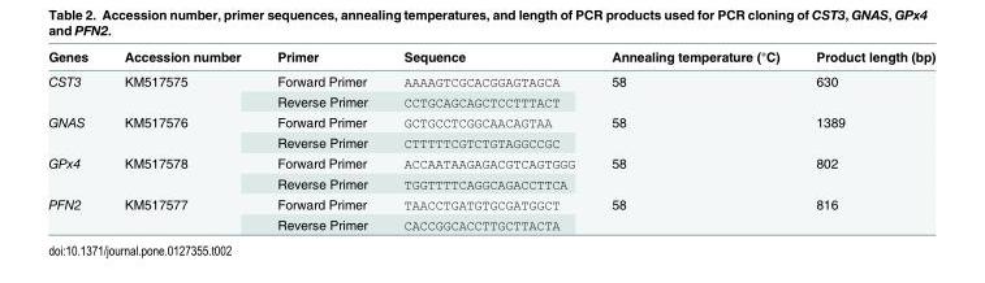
<table><thead><tr><td>Genes</td><td>Accession number</td><td>Primer</td><td>Sequence</td><td>Annealing temperature (°C)</td><td>Product length (bp)</td></tr></thead><tbody><tr><td rowspan="2">CST3</td><td rowspan="2">KM517575</td><td>Forward Primer</td><td>AAAAGTCGCACGGAGTAGCA</td><td rowspan="2">58</td><td rowspan="2">630</td></tr><tr><td>Reverse Primer</td><td>CCTGCAGCAGCTCCTTTACT</td></tr><tr><td rowspan="2">GNAS</td><td rowspan="2">KM517576</td><td>Forward Primer</td><td>GCTGCCTCGGCAACAGTAA</td><td rowspan="2">58</td><td rowspan="2">1389</td></tr><tr><td>Reverse Primer</td><td>CTTTTTCGTCTGTAGGCCGC</td></tr><tr><td rowspan="2">GPx4</td><td rowspan="2">KM517578</td><td>Forward Primer</td><td>ACCAATAAGAGACGTCAGTGGG</td><td rowspan="2">58</td><td rowspan="2">802</td></tr><tr><td>Reverse Primer</td><td>TGGTTTTCAGGCAGACCTTCA</td></tr><tr><td rowspan="2">PFN2</td><td rowspan="2">KM517577</td><td>Forward Primer</td><td>TAACCTGATGTGCGATGGCT</td><td rowspan="2">58</td><td rowspan="2">816</td></tr><tr><td>Reverse Primer</td><td>CACCGGCACCTTGCTTACTA</td></tr></tbody></table>